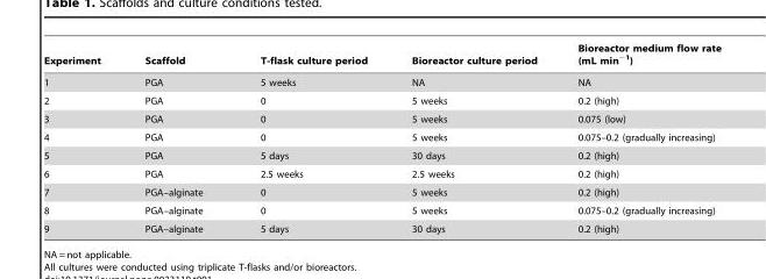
<table><thead><tr><td>Experiment</td><td>Scaffold</td><td>T-flask culture period</td><td>Bioreactor culture period</td><td>Bioreactor medium flow rate (mL min<sup>−1</sup>)</td></tr></thead><tbody><tr><td>1</td><td>PGA</td><td>5 weeks</td><td>NA</td><td>NA</td></tr><tr><td>2</td><td>PGA</td><td>0</td><td>5 weeks</td><td>0.2 (high)</td></tr><tr><td>3</td><td>PGA</td><td>0</td><td>5 weeks</td><td>0.075 (low)</td></tr><tr><td>4</td><td>PGA</td><td>0</td><td>5 weeks</td><td>0.075–0.2 (gradually increasing)</td></tr><tr><td>5</td><td>PGA</td><td>5 days</td><td>30 days</td><td>0.2 (high)</td></tr><tr><td>6</td><td>PGA</td><td>2.5 weeks</td><td>2.5 weeks</td><td>0.2 (high)</td></tr><tr><td>7</td><td>PGA–alginate</td><td>0</td><td>5 weeks</td><td>0.2 (high)</td></tr><tr><td>8</td><td>PGA–alginate</td><td>0</td><td>5 weeks</td><td>0.075–0.2 (gradually increasing)</td></tr><tr><td>9</td><td>PGA–alginate</td><td>5 days</td><td>30 days</td><td>0.2 (high)</td></tr></tbody></table>